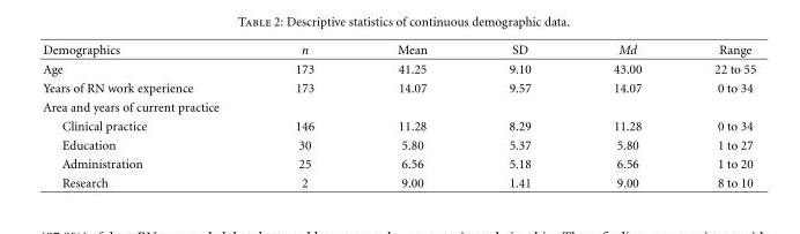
<table><thead><tr><td>Demographics</td><td>n</td><td>Mean</td><td>SD</td><td>Md</td><td>Range</td></tr></thead><tbody><tr><td>Age</td><td>173</td><td>41.25</td><td>9.10</td><td>43.00</td><td>22 to 55</td></tr><tr><td>Years of RN work experience</td><td>173</td><td>14.07</td><td>9.57</td><td>14.07</td><td>0 to 34</td></tr><tr><td colspan="6">Area and years of current practice</td></tr><tr><td>Clinical practice</td><td>146</td><td>11.28</td><td>8.29</td><td>11.28</td><td>0 to 34</td></tr><tr><td>Education</td><td>30</td><td>5.80</td><td>5.37</td><td>5.80</td><td>1 to 27</td></tr><tr><td>Administration</td><td>25</td><td>6.56</td><td>5.18</td><td>6.56</td><td>1 to 20</td></tr><tr><td>Research</td><td>2</td><td>9.00</td><td>1.41</td><td>9.00</td><td>8 to 10</td></tr></tbody></table>